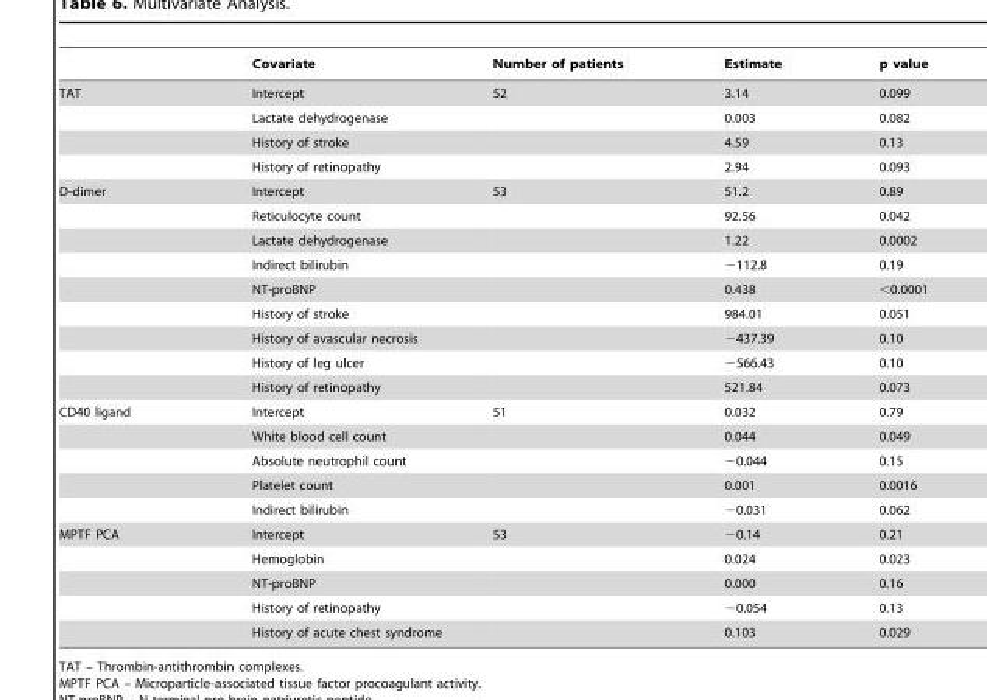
<table><thead><tr><td></td><td>Covariate</td><td>Number of patients</td><td>Estimate</td><td>p value</td></tr></thead><tbody><tr><td rowspan="4">TAT</td><td>Intercept</td><td>52</td><td>3.14</td><td>0.099</td></tr><tr><td>Lactate dehydrogenase</td><td></td><td>0.003</td><td>0.082</td></tr><tr><td>History of stroke</td><td></td><td>4.59</td><td>0.13</td></tr><tr><td>History of retinopathy</td><td></td><td>2.94</td><td>0.093</td></tr><tr><td rowspan="9">D-dimer</td><td>Intercept</td><td>53</td><td>51.2</td><td>0.89</td></tr><tr><td>Reticulocyte count</td><td></td><td>92.56</td><td>0.042</td></tr><tr><td>Lactate dehydrogenase</td><td></td><td>1.22</td><td>0.0002</td></tr><tr><td>Indirect bilirubin</td><td></td><td>−112.8</td><td>0.19</td></tr><tr><td>NT-proBNP</td><td></td><td>0.438</td><td>&lt;0.0001</td></tr><tr><td>History of stroke</td><td></td><td>984.01</td><td>0.051</td></tr><tr><td>History of avascular necrosis</td><td></td><td>−437.39</td><td>0.10</td></tr><tr><td>History of leg ulcer</td><td></td><td>−566.43</td><td>0.10</td></tr><tr><td>History of retinopathy</td><td></td><td>521.84</td><td>0.073</td></tr><tr><td rowspan="5">CD40 ligand</td><td>Intercept</td><td>51</td><td>0.032</td><td>0.79</td></tr><tr><td>White blood cell count</td><td></td><td>0.044</td><td>0.049</td></tr><tr><td>Absolute neutrophil count</td><td></td><td>−0.044</td><td>0.15</td></tr><tr><td>Platelet count</td><td></td><td>0.001</td><td>0.0016</td></tr><tr><td>Indirect bilirubin</td><td></td><td>−0.031</td><td>0.062</td></tr><tr><td rowspan="5">MPTF PCA</td><td>Intercept</td><td>53</td><td>−0.14</td><td>0.21</td></tr><tr><td>Hemoglobin</td><td></td><td>0.024</td><td>0.023</td></tr><tr><td>NT-proBNP</td><td></td><td>0.000</td><td>0.16</td></tr><tr><td>History of retinopathy</td><td></td><td>−0.054</td><td>0.13</td></tr><tr><td>History of acute chest syndrome</td><td></td><td>0.103</td><td>0.029</td></tr></tbody></table>